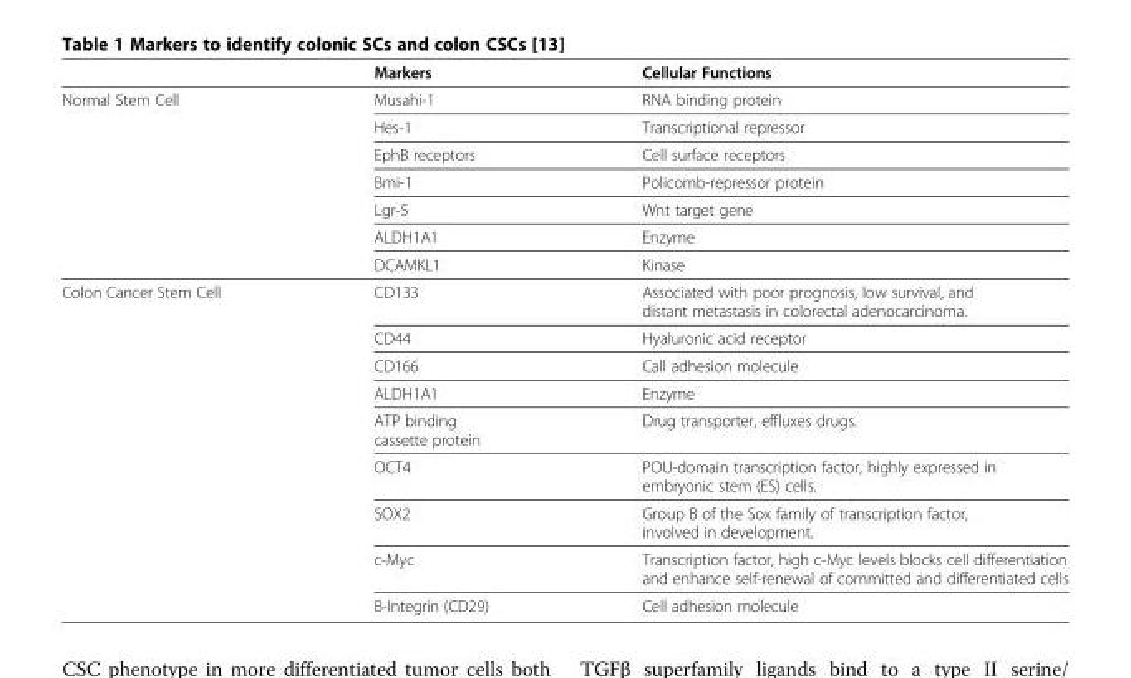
<table><thead><tr><td></td><td>Markers</td><td>Cellular Functions</td></tr></thead><tbody><tr><td rowspan="7">Normal Stem Cell</td><td>Musahi-1</td><td>RNA binding protein</td></tr><tr><td>Hes-1</td><td>Transcriptional repressor</td></tr><tr><td>EphB receptors</td><td>Cell surface receptors</td></tr><tr><td>Bmi-1</td><td>Policomb-repressor protein</td></tr><tr><td>Lgr-5</td><td>Wnt target gene</td></tr><tr><td>ALDH1A1</td><td>Enzyme</td></tr><tr><td>DCAMKL1</td><td>Kinase</td></tr><tr><td rowspan="9">Colon Cancer Stem Cell</td><td>CD133</td><td>Associated with poor prognosis, low survival, and distant metastasis in colorectal adenocarcinoma.</td></tr><tr><td>CD44</td><td>Hyaluronic acid receptor</td></tr><tr><td>CD166</td><td>Call adhesion molecule</td></tr><tr><td>ALDH1A1</td><td>Enzyme</td></tr><tr><td>ATP binding cassette protein</td><td>Drug transporter, effluxes drugs.</td></tr><tr><td>OCT4</td><td>POU-domain transcription factor, highly expressed in embryonic stem (ES) cells.</td></tr><tr><td>SOX2</td><td>Group B of the Sox family of transcription factor, involved in development.</td></tr><tr><td>c-Myc</td><td>Transcription factor, high c-Myc levels blocks cell differentiation and enhance self-renewal of committed and differentiated cells</td></tr><tr><td>B-Integrin (CD29)</td><td>Cell adhesion molecule</td></tr></tbody></table>